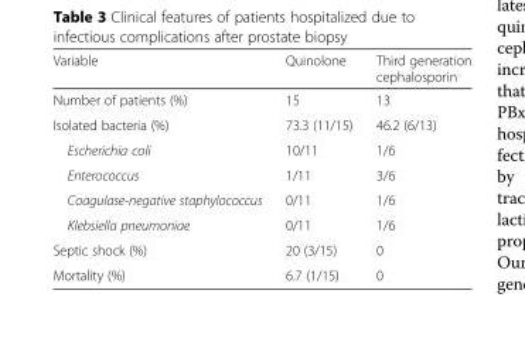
<table><thead><tr><td>Variable</td><td>Quinolone</td><td>Third generation cephalosporin</td></tr></thead><tbody><tr><td>Number of patients (%)</td><td>15</td><td>13</td></tr><tr><td>Isolated bacteria (%)</td><td>73.3 (11/15)</td><td>46.2 (6/13)</td></tr><tr><td>Escherichia coli</td><td>10/11</td><td>1/6</td></tr><tr><td>Enterococcus</td><td>1/11</td><td>3/6</td></tr><tr><td>Coagulase-negative staphylococcus</td><td>0/11</td><td>1/6</td></tr><tr><td>Klebsiella pneumoniae</td><td>0/11</td><td>1/6</td></tr><tr><td>Septic shock (%)</td><td>20 (3/15)</td><td>0</td></tr><tr><td>Mortality (%)</td><td>6.7 (1/15)</td><td>0</td></tr></tbody></table>